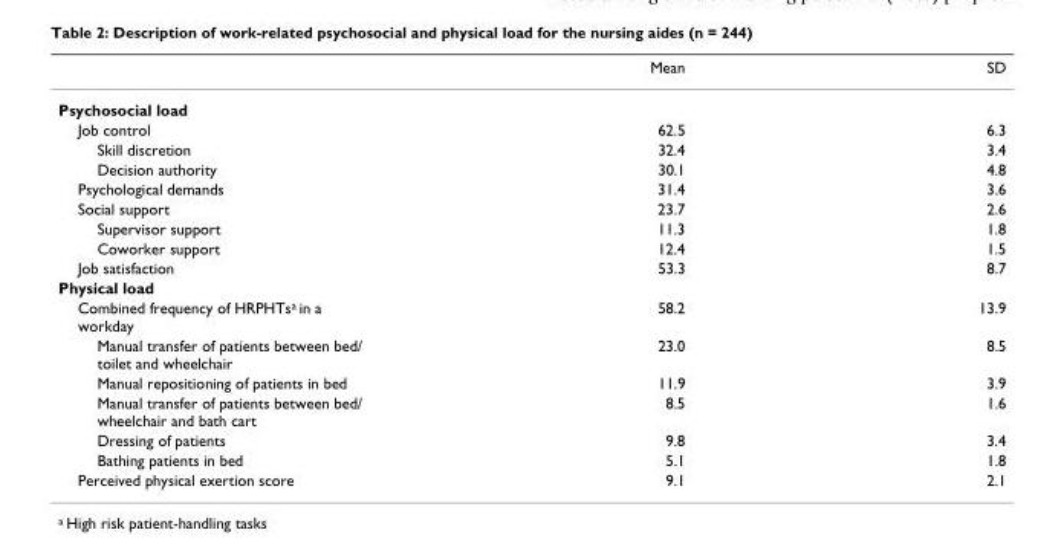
<table><thead><tr><td></td><td>Mean</td><td>SD</td></tr></thead><tbody><tr><td colspan="3">Psychosocial load</td></tr><tr><td>Job control</td><td>62.5</td><td>6.3</td></tr><tr><td>Skill discretion</td><td>32.4</td><td>3.4</td></tr><tr><td>Decision authority</td><td>30.1</td><td>4.8</td></tr><tr><td>Psychological demands</td><td>31.4</td><td>3.6</td></tr><tr><td>Social support</td><td>23.7</td><td>2.6</td></tr><tr><td>Supervisor support</td><td>11.3</td><td>1.8</td></tr><tr><td>Coworker support</td><td>12.4</td><td>1.5</td></tr><tr><td>Job satisfaction</td><td>53.3</td><td>8.7</td></tr><tr><td colspan="3">Physical load</td></tr><tr><td>Combined frequency of HRPHTs<sup>a</sup> in a workday</td><td>58.2</td><td>13.9</td></tr><tr><td>Manual transfer of patients between bed/ toilet and wheelchair</td><td>23.0</td><td>8.5</td></tr><tr><td>Manual repositioning of patients in bed</td><td>11.9</td><td>3.9</td></tr><tr><td>Manual transfer of patients between bed/ wheelchair and bath cart</td><td>8.5</td><td>1.6</td></tr><tr><td>Dressing of patients</td><td>9.8</td><td>3.4</td></tr><tr><td>Bathing patients in bed</td><td>5.1</td><td>1.8</td></tr><tr><td>Perceived physical exertion score</td><td>9.1</td><td>2.1</td></tr></tbody></table>